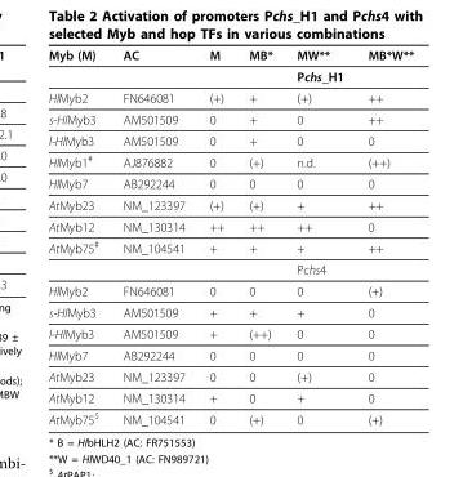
<table><thead><tr><td>Myb (M)</td><td>AC</td><td>M</td><td>MB*</td><td>MW**</td><td>MB*W**</td></tr></thead><tbody><tr><td></td><td></td><td></td><td></td><td>Pchs_H1</td><td></td></tr><tr><td>HlMyb2</td><td>FN646081</td><td>(+)</td><td>+</td><td>(+)</td><td>++</td></tr><tr><td>s-HlMyb3</td><td>AM501509</td><td>0</td><td>+</td><td>0</td><td>++</td></tr><tr><td>l-HlMyb3</td><td>AM501509</td><td>0</td><td>+</td><td>0</td><td>0</td></tr><tr><td>HlMyb1<sup>#</sup></td><td>AJ876882</td><td>0</td><td>(+)</td><td>n.d.</td><td>(++)</td></tr><tr><td>HlMyb7</td><td>AB292244</td><td>0</td><td>0</td><td>0</td><td>0</td></tr><tr><td>AtMyb23</td><td>NM_123397</td><td>(+)</td><td>(+)</td><td>+</td><td>++</td></tr><tr><td>AtMyb12</td><td>NM_130314</td><td>++</td><td>++</td><td>++</td><td>0</td></tr><tr><td rowspan="2">AtMyb75<sup>#</sup></td><td>NM_104541</td><td>+</td><td>+</td><td>+</td><td>++</td></tr><tr><td></td><td></td><td></td><td>Pchs4</td><td></td></tr><tr><td>HlMyb2</td><td>FN646081</td><td>0</td><td>0</td><td>0</td><td>(+)</td></tr><tr><td>s-HlMyb3</td><td>AM501509</td><td>+</td><td>+</td><td>+</td><td>0</td></tr><tr><td>l-HlMyb3</td><td>AM501509</td><td>+</td><td>(++)</td><td>0</td><td>0</td></tr><tr><td>HlMyb7</td><td>AB292244</td><td>0</td><td>0</td><td>0</td><td>0</td></tr><tr><td>AtMyb23</td><td>NM_123397</td><td>0</td><td>0</td><td>(+)</td><td>0</td></tr><tr><td>AtMyb12</td><td>NM_130314</td><td>+</td><td>0</td><td>+</td><td>0</td></tr><tr><td>AtMyb75<sup>$</sup></td><td>NM_104541</td><td>0</td><td>(+)</td><td>0</td><td>(+)</td></tr></tbody></table>